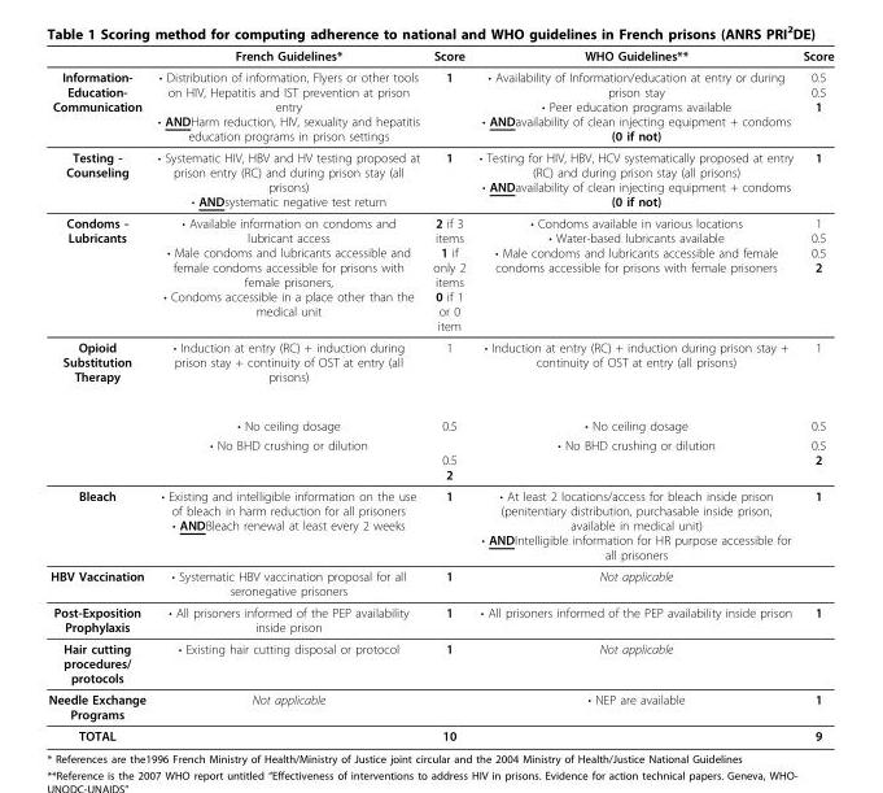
<table><thead><tr><td></td><td>French Guidelines*</td><td>Score</td><td>WHO Guidelines**</td><td>Score</td></tr></thead><tbody><tr><td>Information- Education- Communication</td><td>• Distribution of information, Flyers or other tools on HIV, Hepatitis and IST prevention at prison entry • ANDHarm reduction, HIV, sexuality and hepatitis education programs in prison settings</td><td>1</td><td>• Availability of Information/education at entry or during prison stay • Peer education programs available • ANDavailability of clean injecting equipment + condoms (0 if not)</td><td>0.5 0.5 1</td></tr><tr><td>Testing - Counseling</td><td>• Systematic HIV, HBV and HV testing proposed at prison entry (RC) and during prison stay (all prisons) • ANDsystematic negative test return</td><td>1</td><td>• Testing for HIV, HBV, HCV systematically proposed at entry (RC) and during prison stay (all prisons) • ANDavailability of clean injecting equipment + condoms (0 if not)</td><td>1</td></tr><tr><td>Condoms - Lubricants</td><td>• Available information on condoms and lubricant access • Male condoms and lubricants accessible and female condoms accessible for prisons with female prisoners, • Condoms accessible in a place other than the medical unit</td><td>2 if 3 items 1 if only 2 items 0 if 1 or 0 item</td><td>• Condoms available in various locations • Water-based lubricants available • Male condoms and lubricants accessible and female condoms accessible for prisons with female prisoners</td><td>1 0.5 0.5 2</td></tr><tr><td rowspan="3">Opioid Substitution Therapy</td><td>• Induction at entry (RC) + induction during prison stay + continuity of OST at entry (all prisons)</td><td>1</td><td>• Induction at entry (RC) + induction during prison stay + continuity of OST at entry (all prisons)</td><td>1</td></tr><tr><td>• No ceiling dosage</td><td>0.5</td><td>• No ceiling dosage</td><td>0.5</td></tr><tr><td>• No BHD crushing or dilution</td><td>0.5 2</td><td>• No BHD crushing or dilution</td><td>0.5 2</td></tr><tr><td>Bleach</td><td>• Existing and intelligible information on the use of bleach in harm reduction for all prisoners • ANDBleach renewal at least every 2 weeks</td><td>1</td><td>• At least 2 locations/access for bleach inside prison (penitentiary distribution, purchasable inside prison, available in medical unit) • ANDIntelligible information for HR purpose accessible for all prisoners</td><td>1</td></tr><tr><td>HBV Vaccination</td><td>• Systematic HBV vaccination proposal for all seronegative prisoners</td><td>1</td><td>Not applicable</td><td></td></tr><tr><td>Post-Exposition Prophylaxis</td><td>• All prisoners informed of the PEP availability inside prison</td><td>1</td><td>• All prisoners informed of the PEP availability inside prison</td><td>1</td></tr><tr><td>Hair cutting procedures/ protocols</td><td>• Existing hair cutting disposal or protocol</td><td>1</td><td>Not applicable</td><td></td></tr><tr><td>Needle Exchange Programs</td><td>Not applicable</td><td></td><td>• NEP are available</td><td>1</td></tr><tr><td>TOTAL</td><td></td><td>10</td><td></td><td>9</td></tr></tbody></table>